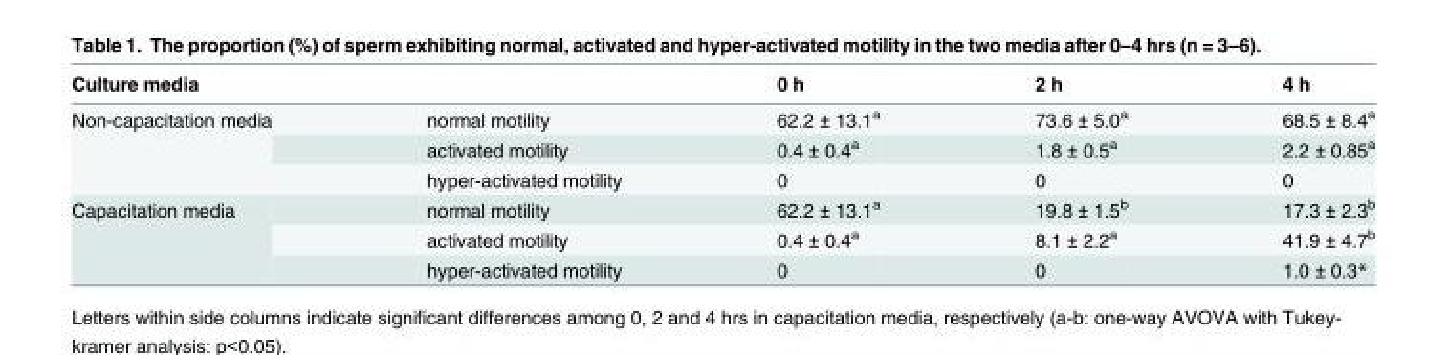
<table><thead><tr><td>Culture media</td><td></td><td>0 h</td><td>2 h</td><td>4 h</td></tr></thead><tbody><tr><td rowspan="3">Non-capacitation media</td><td>normal motility</td><td>62.2 ± 13.1<sup>a</sup></td><td>73.6 ± 5.0<sup>a</sup></td><td>68.5 ± 8.4<sup>a</sup></td></tr><tr><td>activated motility</td><td>0.4 ± 0.4<sup>a</sup></td><td>1.8 ± 0.5<sup>a</sup></td><td>2.2 ± 0.85<sup>a</sup></td></tr><tr><td>hyper-activated motility</td><td>0</td><td>0</td><td>0</td></tr><tr><td rowspan="3">Capacitation media</td><td>normal motility</td><td>62.2 ± 13.1<sup>a</sup></td><td>19.8 ± 1.5<sup>b</sup></td><td>17.3 ± 2.3<sup>b</sup></td></tr><tr><td>activated motility</td><td>0.4 ± 0.4<sup>a</sup></td><td>8.1 ± 2.2<sup>a</sup></td><td>41.9 ± 4.7<sup>b</sup></td></tr><tr><td>hyper-activated motility</td><td>0</td><td>0</td><td>1.0 ± 0.3*</td></tr></tbody></table>